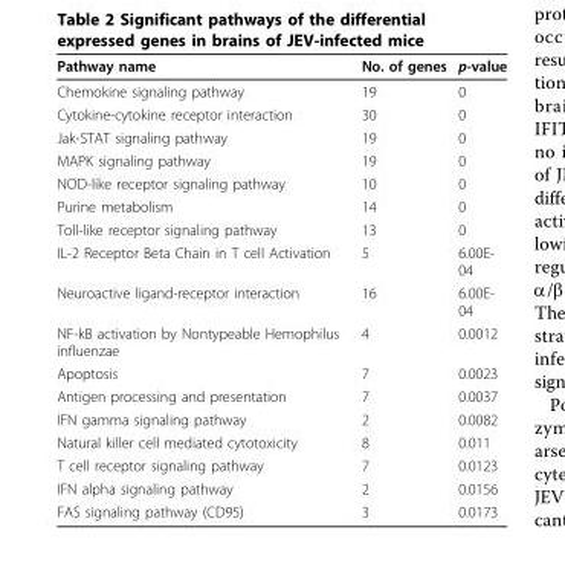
<table><thead><tr><td>Pathway name</td><td>No. of genes</td><td>p-value</td></tr></thead><tbody><tr><td>Chemokine signaling pathway</td><td>19</td><td>0</td></tr><tr><td>Cytokine-cytokine receptor interaction</td><td>30</td><td>0</td></tr><tr><td>Jak-STAT signaling pathway</td><td>19</td><td>0</td></tr><tr><td>MAPK signaling pathway</td><td>19</td><td>0</td></tr><tr><td>NOD-like receptor signaling pathway</td><td>10</td><td>0</td></tr><tr><td>Purine metabolism</td><td>14</td><td>0</td></tr><tr><td>Toll-like receptor signaling pathway</td><td>13</td><td>0</td></tr><tr><td>IL-2 Receptor Beta Chain in T cell Activation</td><td>5</td><td>6.00E- 04</td></tr><tr><td>Neuroactive ligand-receptor interaction</td><td>16</td><td>6.00E- 04</td></tr><tr><td>NF-kB activation by Nontypeable Hemophilus influenzae</td><td>4</td><td>0.0012</td></tr><tr><td>Apoptosis</td><td>7</td><td>0.0023</td></tr><tr><td>Antigen processing and presentation</td><td>7</td><td>0.0037</td></tr><tr><td>IFN gamma signaling pathway</td><td>2</td><td>0.0082</td></tr><tr><td>Natural killer cell mediated cytotoxicity</td><td>8</td><td>0.011</td></tr><tr><td>T cell receptor signaling pathway</td><td>7</td><td>0.0123</td></tr><tr><td>IFN alpha signaling pathway</td><td>2</td><td>0.0156</td></tr><tr><td>FAS signaling pathway (CD95)</td><td>3</td><td>0.0173</td></tr></tbody></table>